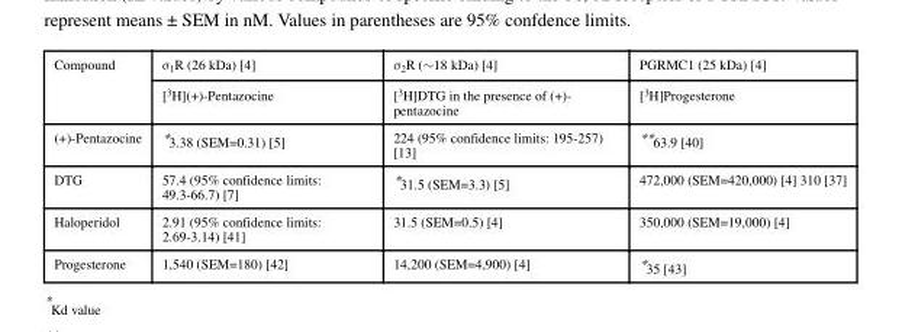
<table><tbody><tr><td rowspan="2">Compound</td><td>σ<sub>1</sub>R (26 kDa) [4]</td><td>σ<sub>2</sub>R (∼18 kDa) [4]</td><td>PGRMC1 (25 kDa) [4]</td></tr><tr><td>[<sup>3</sup>H](+)-Pentazocine</td><td>[<sup>3</sup>H]DTG in the presence of (+)- pentazocine</td><td>[<sup>3</sup>H]Progesterone</td></tr><tr><td>(+)-Pentazocine</td><td>*3.38 (SEM=0.31) [5]</td><td>224 (95% confidence limits: 195-257) [13]</td><td>**63.9 [40]</td></tr><tr><td>DTG</td><td>57.4 (95% confidence limits: 49.3-66.7) [7]</td><td>*31.5 (SEM=3.3) [5]</td><td>472,000 (SEM=420,000) [4] 310 [37]</td></tr><tr><td>Haloperidol</td><td>2.91 (95% confidence limits: 2.69-3.14) [41]</td><td>31.5 (SEM=0.5) [4]</td><td>350,000 (SEM=19,000) [4]</td></tr><tr><td>Progesterone</td><td>1,540 (SEM=180) [42]</td><td>14,200 (SEM=4,900) [4]</td><td>*35 [43]</td></tr></tbody></table>